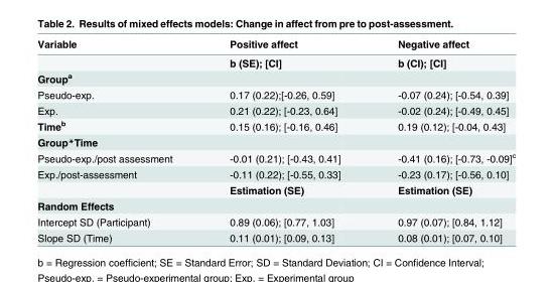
<table><thead><tr><td>Variable</td><td>Positive affect</td><td>Negative affect</td></tr></thead><tbody><tr><td></td><td>b (SE); [CI]</td><td>b (CI); [CI]</td></tr><tr><td colspan="3">Group<sup>a</sup></td></tr><tr><td>Pseudo-exp.</td><td>0.17 (0.22);[-0.26, 0.59]</td><td>-0.07 (0.24); [-0.54, 0.39]</td></tr><tr><td>Exp.</td><td>0.21 (0.22); [-0.23, 0.64]</td><td>-0.02 (0.24); [-0.49, 0.45]</td></tr><tr><td>Time<sup>b</sup></td><td>0.15 (0.16); [-0.16, 0.46]</td><td>0.19 (0.12); [-0.04, 0.43]</td></tr><tr><td colspan="3">Group*Time</td></tr><tr><td>Pseudo-exp./post assessment</td><td>-0.01 (0.21); [-0.43, 0.41]</td><td>-0.41 (0.16); [-0.73, -0.09]<sup>c</sup></td></tr><tr><td rowspan="2">Exp./post-assessment</td><td>-0.11 (0.22); [-0.55, 0.33]</td><td>-0.23 (0.17); [-0.56, 0.10]</td></tr><tr><td>Estimation (SE)</td><td>Estimation (SE)</td></tr><tr><td colspan="3">Random Effects</td></tr><tr><td>Intercept SD (Participant)</td><td>0.89 (0.06); [0.77, 1.03]</td><td>0.97 (0.07); [0.84, 1.12]</td></tr><tr><td>Slope SD (Time)</td><td>0.11 (0.01); [0.09, 0.13]</td><td>0.08 (0.01); [0.07, 0.10]</td></tr></tbody></table>